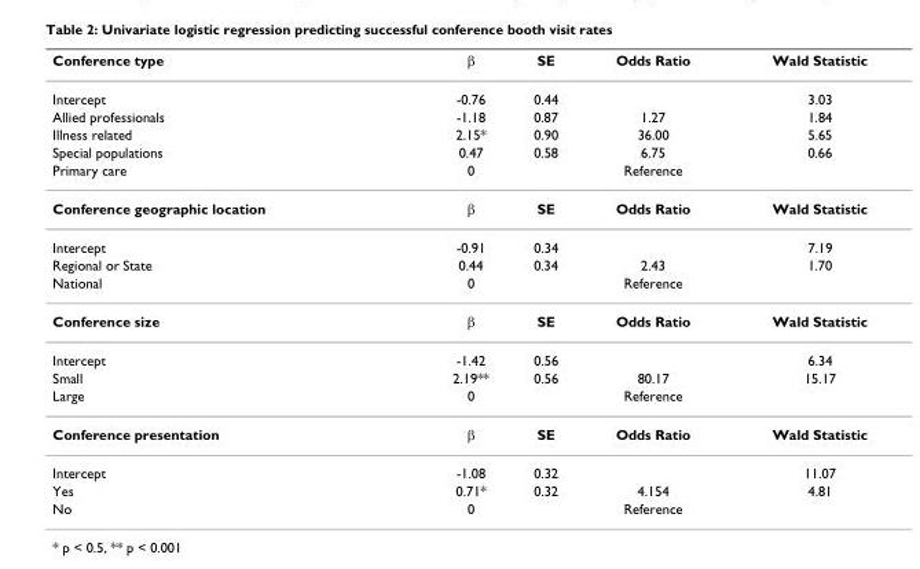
<table><thead><tr><td>Conference type</td><td>β</td><td>SE</td><td>Odds Ratio</td><td>Wald Statistic</td></tr></thead><tbody><tr><td>Intercept</td><td>-0.76</td><td>0.44</td><td></td><td>3.03</td></tr><tr><td>Allied professionals</td><td>-1.18</td><td>0.87</td><td>1.27</td><td>1.84</td></tr><tr><td>Illness related</td><td>2.15*</td><td>0.90</td><td>36.00</td><td>5.65</td></tr><tr><td>Special populations</td><td>0.47</td><td>0.58</td><td>6.75</td><td>0.66</td></tr><tr><td>Primary care</td><td>0</td><td></td><td>Reference</td><td></td></tr><tr><td>Conference geographic location</td><td>β</td><td>SE</td><td>Odds Ratio</td><td>Wald Statistic</td></tr><tr><td>Intercept</td><td>-0.91</td><td>0.34</td><td></td><td>7.19</td></tr><tr><td>Regional or State</td><td>0.44</td><td>0.34</td><td>2.43</td><td>1.70</td></tr><tr><td>National</td><td>0</td><td></td><td>Reference</td><td></td></tr><tr><td>Conference size</td><td>β</td><td>SE</td><td>Odds Ratio</td><td>Wald Statistic</td></tr><tr><td>Intercept</td><td>-1.42</td><td>0.56</td><td></td><td>6.34</td></tr><tr><td>Small</td><td>2.19**</td><td>0.56</td><td>80.17</td><td>15.17</td></tr><tr><td>Large</td><td>0</td><td></td><td>Reference</td><td></td></tr><tr><td>Conference presentation</td><td>β</td><td>SE</td><td>Odds Ratio</td><td>Wald Statistic</td></tr><tr><td>Intercept</td><td>-1.08</td><td>0.32</td><td></td><td>11.07</td></tr><tr><td>Yes</td><td>0.71*</td><td>0.32</td><td>4.154</td><td>4.81</td></tr><tr><td>No</td><td>0</td><td></td><td>Reference</td><td></td></tr></tbody></table>